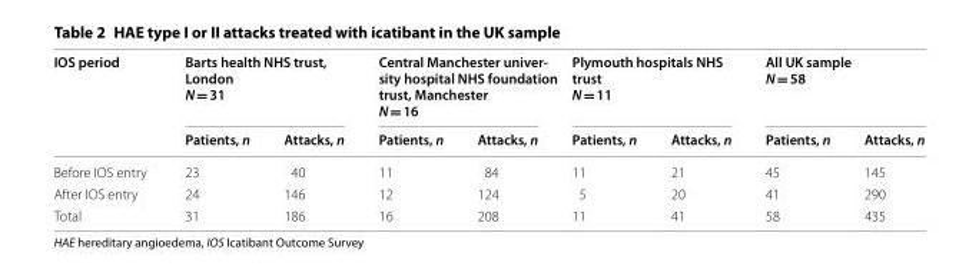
<table><thead><tr><td rowspan="2">IOS period</td><td colspan="2">Barts health NHS trust, London N = 31</td><td colspan="2">Central Manchester univer- sity hospital NHS foundation trust, Manchester N = 16</td><td colspan="2">Plymouth hospitals NHS trust N = 11</td><td colspan="2">All UK sample N = 58</td></tr><tr><td>Patients, n</td><td>Attacks, n</td><td>Patients, n</td><td>Attacks, n</td><td>Patients, n</td><td>Attacks, n</td><td>Patients, n</td><td>Attacks, n</td></tr></thead><tbody><tr><td>Before IOS entry</td><td>23</td><td>40</td><td>11</td><td>84</td><td>11</td><td>21</td><td>45</td><td>145</td></tr><tr><td>After IOS entry</td><td>24</td><td>146</td><td>12</td><td>124</td><td>5</td><td>20</td><td>41</td><td>290</td></tr><tr><td>Total</td><td>31</td><td>186</td><td>16</td><td>208</td><td>11</td><td>41</td><td>58</td><td>435</td></tr></tbody></table>